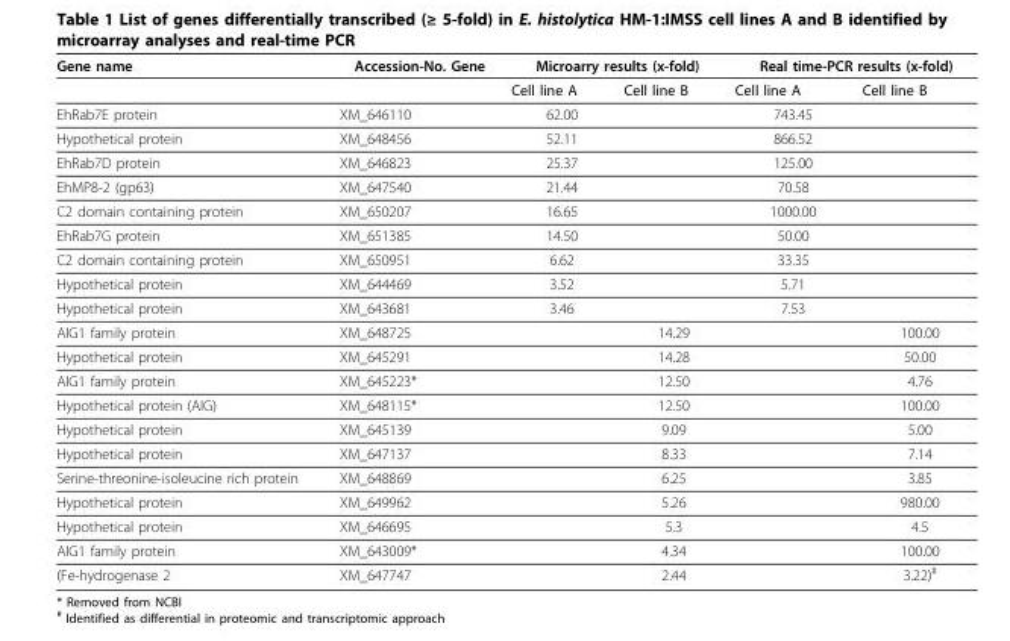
<table><thead><tr><td rowspan="2">Gene name</td><td rowspan="2">Accession-No. Gene</td><td colspan="2">Microarry results (x-fold)</td><td colspan="2">Real time-PCR results (x-fold)</td></tr><tr><td>Cell line A</td><td>Cell line B</td><td>Cell line A</td><td>Cell line B</td></tr></thead><tbody><tr><td>EhRab7E protein</td><td>XM_646110</td><td>62.00</td><td></td><td>743.45</td><td></td></tr><tr><td>Hypothetical protein</td><td>XM_648456</td><td>52.11</td><td></td><td>866.52</td><td></td></tr><tr><td>EhRab7D protein</td><td>XM_646823</td><td>25.37</td><td></td><td>125.00</td><td></td></tr><tr><td>EhMP8-2 (gp63)</td><td>XM_647540</td><td>21.44</td><td></td><td>70.58</td><td></td></tr><tr><td>C2 domain containing protein</td><td>XM_650207</td><td>16.65</td><td></td><td>1000.00</td><td></td></tr><tr><td>EhRab7G protein</td><td>XM_651385</td><td>14.50</td><td></td><td>50.00</td><td></td></tr><tr><td>C2 domain containing protein</td><td>XM_650951</td><td>6.62</td><td></td><td>33.35</td><td></td></tr><tr><td>Hypothetical protein</td><td>XM_644469</td><td>3.52</td><td></td><td>5.71</td><td></td></tr><tr><td>Hypothetical protein</td><td>XM_643681</td><td>3.46</td><td></td><td>7.53</td><td></td></tr><tr><td>AIG1 family protein</td><td>XM_648725</td><td></td><td>14.29</td><td></td><td>100.00</td></tr><tr><td>Hypothetical protein</td><td>XM_645291</td><td></td><td>14.28</td><td></td><td>50.00</td></tr><tr><td>AIG1 family protein</td><td>XM_645223*</td><td></td><td>12.50</td><td></td><td>4.76</td></tr><tr><td>Hypothetical protein (AIG)</td><td>XM_648115*</td><td></td><td>12.50</td><td></td><td>100.00</td></tr><tr><td>Hypothetical protein</td><td>XM_645139</td><td></td><td>9.09</td><td></td><td>5.00</td></tr><tr><td>Hypothetical protein</td><td>XM_647137</td><td></td><td>8.33</td><td></td><td>7.14</td></tr><tr><td>Serine-threonine-isoleucine rich protein</td><td>XM_648869</td><td></td><td>6.25</td><td></td><td>3.85</td></tr><tr><td>Hypothetical protein</td><td>XM_649962</td><td></td><td>5.26</td><td></td><td>980.00</td></tr><tr><td>Hypothetical protein</td><td>XM_646695</td><td></td><td>5.3</td><td></td><td>4.5</td></tr><tr><td>AIG1 family protein</td><td>XM_643009*</td><td></td><td>4.34</td><td></td><td>100.00</td></tr><tr><td>(Fe-hydrogenase 2</td><td>XM_647747</td><td></td><td>2.44</td><td></td><td>3.22)<sup>#</sup></td></tr></tbody></table>